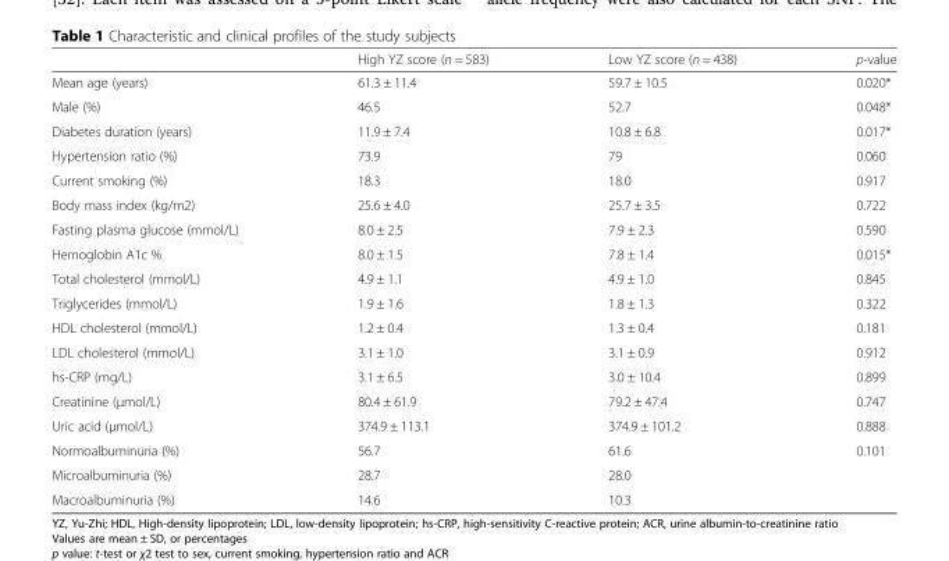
<table><thead><tr><td></td><td>High YZ score (n = 583)</td><td>Low YZ score (n = 438)</td><td>p-value</td></tr></thead><tbody><tr><td>Mean age (years)</td><td>61.3 ± 11.4</td><td>59.7 ± 10.5</td><td>0.020*</td></tr><tr><td>Male (%)</td><td>46.5</td><td>52.7</td><td>0.048*</td></tr><tr><td>Diabetes duration (years)</td><td>11.9 ± 7.4</td><td>10.8 ± 6.8</td><td>0.017*</td></tr><tr><td>Hypertension ratio (%)</td><td>73.9</td><td>79</td><td>0.060</td></tr><tr><td>Current smoking (%)</td><td>18.3</td><td>18.0</td><td>0.917</td></tr><tr><td>Body mass index (kg/m2)</td><td>25.6 ± 4.0</td><td>25.7 ± 3.5</td><td>0.722</td></tr><tr><td>Fasting plasma glucose (mmol/L)</td><td>8.0 ± 2.5</td><td>7.9 ± 2.3</td><td>0.590</td></tr><tr><td>Hemoglobin A1c %</td><td>8.0 ± 1.5</td><td>7.8 ± 1.4</td><td>0.015*</td></tr><tr><td>Total cholesterol (mmol/L)</td><td>4.9 ± 1.1</td><td>4.9 ± 1.0</td><td>0.845</td></tr><tr><td>Triglycerides (mmol/L)</td><td>1.9 ± 1.6</td><td>1.8 ± 1.3</td><td>0.322</td></tr><tr><td>HDL cholesterol (mmol/L)</td><td>1.2 ± 0.4</td><td>1.3 ± 0.4</td><td>0.181</td></tr><tr><td>LDL cholesterol (mmol/L)</td><td>3.1 ± 1.0</td><td>3.1 ± 0.9</td><td>0.912</td></tr><tr><td>hs-CRP (mg/L)</td><td>3.1 ± 6.5</td><td>3.0 ± 10.4</td><td>0.899</td></tr><tr><td>Creatinine (μmol/L)</td><td>80.4 ± 61.9</td><td>79.2 ± 47.4</td><td>0.747</td></tr><tr><td>Uric acid (μmol/L)</td><td>374.9 ± 113.1</td><td>374.9 ± 101.2</td><td>0.888</td></tr><tr><td>Normoalbuminuria (%)</td><td>56.7</td><td>61.6</td><td rowspan="3">0.101</td></tr><tr><td>Microalbuminuria (%)</td><td>28.7</td><td>28.0</td></tr><tr><td>Macroalbuminuria (%)</td><td>14.6</td><td>10.3</td></tr></tbody></table>